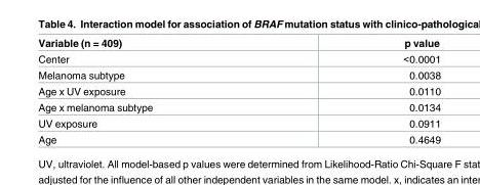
<table><thead><tr><td>Variable (n = 409)</td><td>p value</td></tr></thead><tbody><tr><td>Center</td><td>&lt;0.0001</td></tr><tr><td>Melanoma subtype</td><td>0.0038</td></tr><tr><td>Age x UV exposure</td><td>0.0110</td></tr><tr><td>Age x melanoma subtype</td><td>0.0134</td></tr><tr><td>UV exposure</td><td>0.0911</td></tr><tr><td>Age</td><td>0.4649</td></tr></tbody></table>